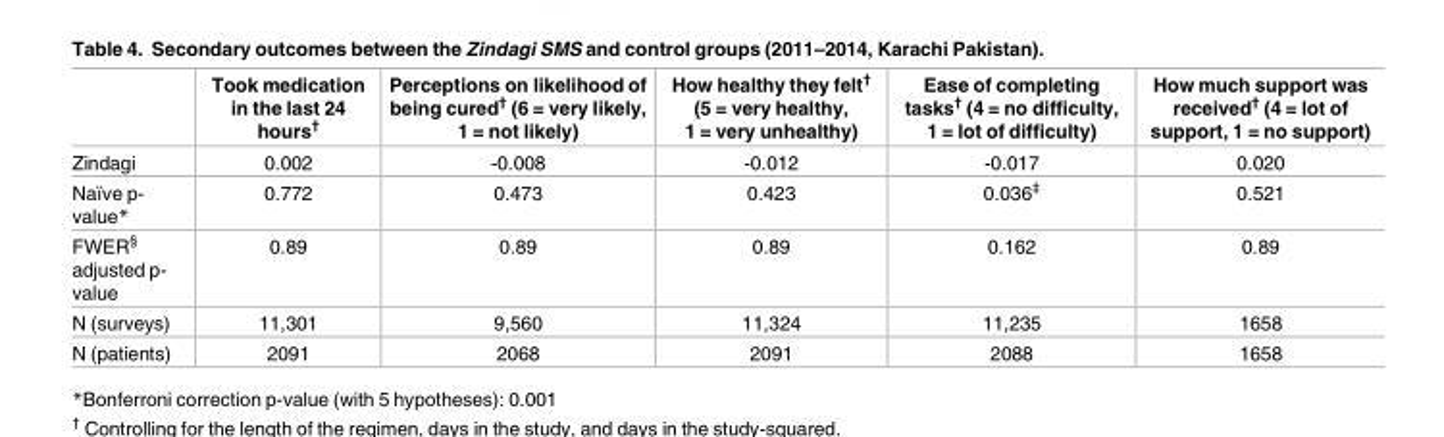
<table><thead><tr><td></td><td>Took medication in the last 24 hours<sup>†</sup></td><td>Perceptions on likelihood of being cured<sup>†</sup> (6 = very likely, 1 = not likely)</td><td>How healthy they felt<sup>†</sup> (5 = very healthy, 1 = very unhealthy)</td><td>Ease of completing tasks<sup>†</sup> (4 = no difficulty, 1 = lot of difficulty)</td><td>How much support was received<sup>†</sup> (4 = lot of support, 1 = no support)</td></tr></thead><tbody><tr><td>Zindagi</td><td>0.002</td><td>-0.008</td><td>-0.012</td><td>-0.017</td><td>0.020</td></tr><tr><td>Naïve p- value*</td><td>0.772</td><td>0.473</td><td>0.423</td><td>0.036<sup>‡</sup></td><td>0.521</td></tr><tr><td>FWER<sup>§</sup> adjusted p- value</td><td>0.89</td><td>0.89</td><td>0.89</td><td>0.162</td><td>0.89</td></tr><tr><td>N (surveys)</td><td>11,301</td><td>9,560</td><td>11,324</td><td>11,235</td><td>1658</td></tr><tr><td>N (patients)</td><td>2091</td><td>2068</td><td>2091</td><td>2088</td><td>1658</td></tr></tbody></table>